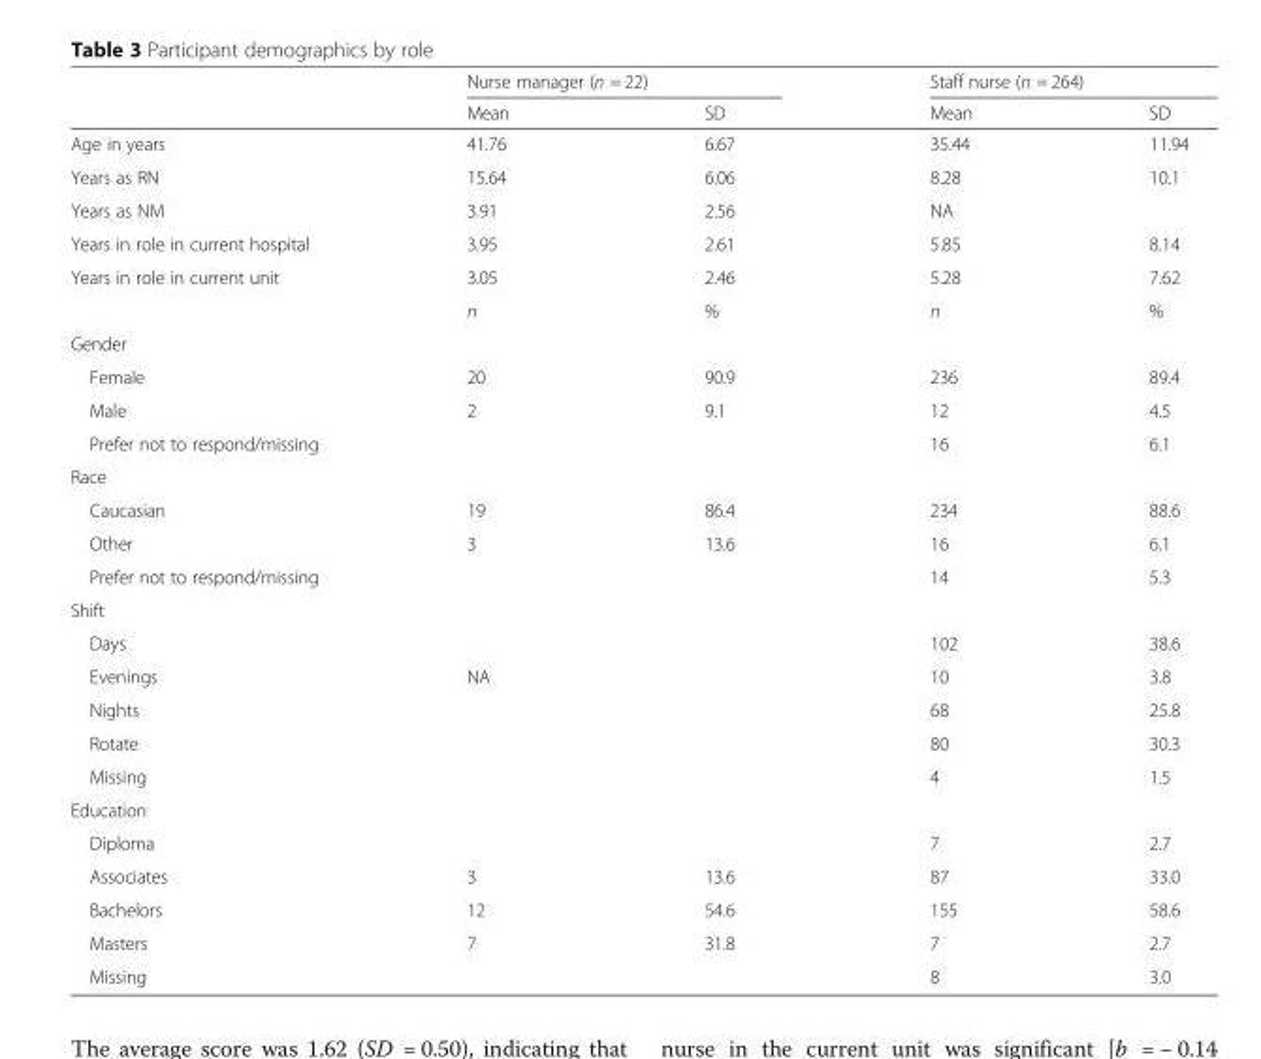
<table><thead><tr><td rowspan="2"></td><td colspan="2">Nurse manager (n = 22)</td><td colspan="2">Staff nurse (n = 264)</td></tr><tr><td>Mean</td><td>SD</td><td>Mean</td><td>SD</td></tr></thead><tbody><tr><td>Age in years</td><td>41.76</td><td>6.67</td><td>35.44</td><td>11.94</td></tr><tr><td>Years as RN</td><td>15.64</td><td>6.06</td><td>8.28</td><td>10.1</td></tr><tr><td>Years as NM</td><td>3.91</td><td>2.56</td><td colspan="2">NA</td></tr><tr><td>Years in role in current hospital</td><td>3.95</td><td>2.61</td><td>5.85</td><td>8.14</td></tr><tr><td rowspan="2">Years in role in current unit</td><td>3.05</td><td>2.46</td><td>5.28</td><td>7.62</td></tr><tr><td>n</td><td>%</td><td>n</td><td>%</td></tr><tr><td colspan="5">Gender</td></tr><tr><td>Female</td><td>20</td><td>90.9</td><td>236</td><td>89.4</td></tr><tr><td>Male</td><td>2</td><td>9.1</td><td>12</td><td>4.5</td></tr><tr><td>Prefer not to respond/missing</td><td></td><td></td><td>16</td><td>6.1</td></tr><tr><td colspan="5">Race</td></tr><tr><td>Caucasian</td><td>19</td><td>86.4</td><td>234</td><td>88.6</td></tr><tr><td>Other</td><td>3</td><td>13.6</td><td>16</td><td>6.1</td></tr><tr><td>Prefer not to respond/missing</td><td></td><td></td><td>14</td><td>5.3</td></tr><tr><td colspan="5">Shift</td></tr><tr><td>Days</td><td colspan="2"></td><td>102</td><td>38.6</td></tr><tr><td>Evenings</td><td colspan="2">NA</td><td>10</td><td>3.8</td></tr><tr><td>Nights</td><td colspan="2"></td><td>68</td><td>25.8</td></tr><tr><td>Rotate</td><td colspan="2"></td><td>80</td><td>30.3</td></tr><tr><td>Missing</td><td colspan="2"></td><td>4</td><td>1.5</td></tr><tr><td colspan="5">Education</td></tr><tr><td>Diploma</td><td></td><td></td><td>7</td><td>2.7</td></tr><tr><td>Associates</td><td>3</td><td>13.6</td><td>87</td><td>33.0</td></tr><tr><td>Bachelors</td><td>12</td><td>54.6</td><td>155</td><td>58.6</td></tr><tr><td>Masters</td><td>7</td><td>31.8</td><td>7</td><td>2.7</td></tr><tr><td>Missing</td><td></td><td></td><td>8</td><td>3.0</td></tr></tbody></table>